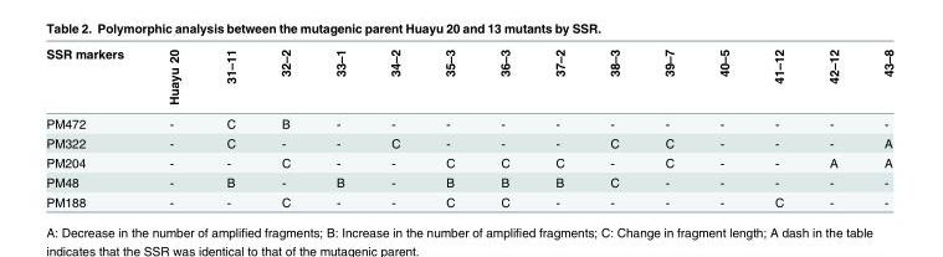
<table><thead><tr><td>SSR markers</td><td>Huayu 20</td><td>31–11</td><td>32–2</td><td>33–1</td><td>34–2</td><td>35–3</td><td>36–3</td><td>37–2</td><td>38–3</td><td>39–7</td><td>40–5</td><td>41–12</td><td>42–12</td><td>43–8</td></tr></thead><tbody><tr><td>PM472</td><td>-</td><td>C</td><td>B</td><td>-</td><td>-</td><td>-</td><td>-</td><td>-</td><td>-</td><td>-</td><td>-</td><td>-</td><td>-</td><td>-</td></tr><tr><td>PM322</td><td>-</td><td>C</td><td>-</td><td>-</td><td>C</td><td>-</td><td>-</td><td>-</td><td>C</td><td>C</td><td>-</td><td>-</td><td>-</td><td>A</td></tr><tr><td>PM204</td><td>-</td><td>-</td><td>C</td><td>-</td><td>-</td><td>C</td><td>C</td><td>C</td><td>-</td><td>C</td><td>-</td><td>-</td><td>A</td><td>A</td></tr><tr><td>PM48</td><td>-</td><td>B</td><td>-</td><td>B</td><td>-</td><td>B</td><td>B</td><td>B</td><td>C</td><td>-</td><td>-</td><td>-</td><td>-</td><td>-</td></tr><tr><td>PM188</td><td>-</td><td>-</td><td>C</td><td>-</td><td>-</td><td>C</td><td>C</td><td>-</td><td>-</td><td>-</td><td>-</td><td>C</td><td>-</td><td>-</td></tr></tbody></table>